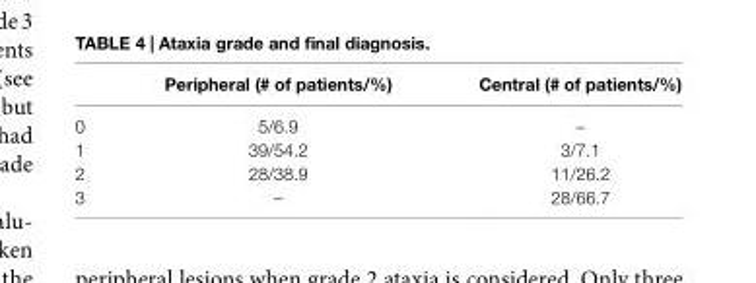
<table><thead><tr><td></td><td>Peripheral (# of patients/%)</td><td>central (# of patients/%)</td></tr></thead><tbody><tr><td>0</td><td>5/6.9</td><td>–</td></tr><tr><td>1</td><td>39/54.2</td><td>3/7.1</td></tr><tr><td>2</td><td>28/38.9</td><td>11/26.2</td></tr><tr><td>3</td><td>–</td><td>28/66.7</td></tr></tbody></table>